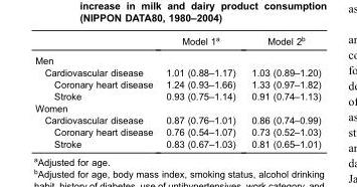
<table><thead><tr><td></td><td>Model 1<sup>a</sup></td><td>Model 2<sup>b</sup></td></tr></thead><tbody><tr><td colspan="3">Men</td></tr><tr><td>Cardiovascular disease</td><td>1.01 (0.88–1.17)</td><td>1.03 (0.89–1.20)</td></tr><tr><td>Coronary heart disease</td><td>1.24 (0.93–1.66)</td><td>1.33 (0.97–1.82)</td></tr><tr><td>Stroke</td><td>0.93 (0.75–1.14)</td><td>0.91 (0.74–1.13)</td></tr><tr><td colspan="3">Women</td></tr><tr><td>Cardiovascular disease</td><td>0.87 (0.76–1.01)</td><td>0.86 (0.74–0.99)</td></tr><tr><td>Coronary heart disease</td><td>0.76 (0.54–1.07)</td><td>0.73 (0.52–1.03)</td></tr><tr><td>Stroke</td><td>0.83 (0.67–1.03)</td><td>0.81 (0.65–1.01)</td></tr></tbody></table>